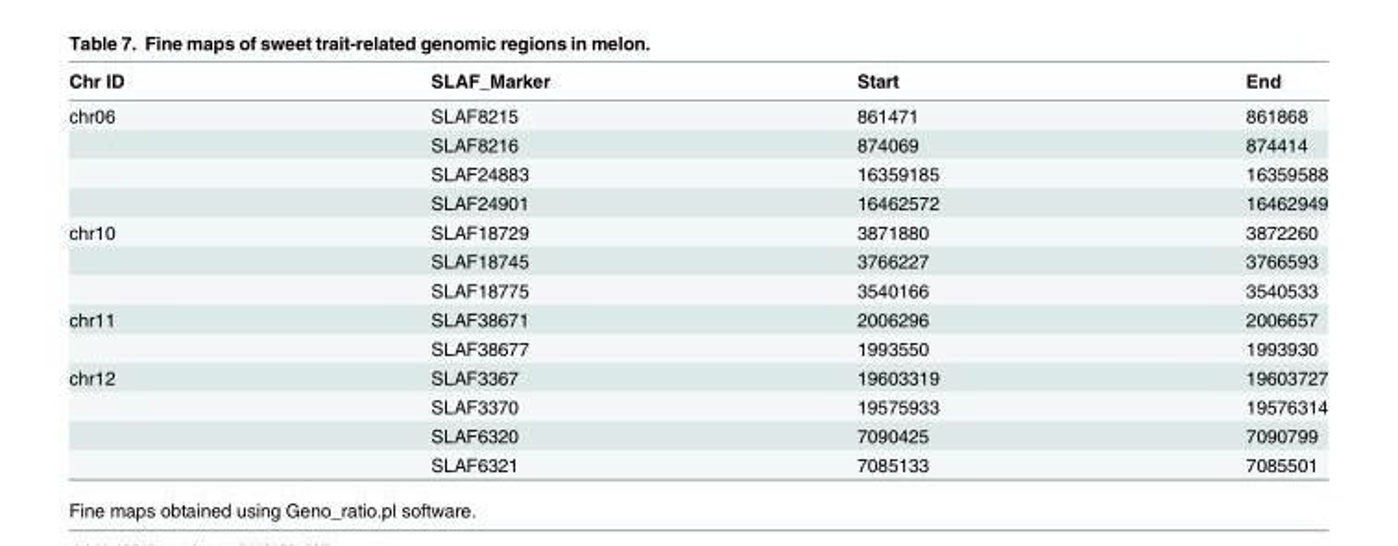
<table><thead><tr><td>Chr ID</td><td>SLAF_Marker</td><td>Start</td><td>End</td></tr></thead><tbody><tr><td rowspan="4">chr06</td><td>SLAF8215</td><td>861471</td><td>861868</td></tr><tr><td>SLAF8216</td><td>874069</td><td>874414</td></tr><tr><td>SLAF24883</td><td>16359185</td><td>16359588</td></tr><tr><td>SLAF24901</td><td>16462572</td><td>16462949</td></tr><tr><td rowspan="3">chr10</td><td>SLAF18729</td><td>3871880</td><td>3872260</td></tr><tr><td>SLAF18745</td><td>3766227</td><td>3766593</td></tr><tr><td>SLAF18775</td><td>3540166</td><td>3540533</td></tr><tr><td rowspan="2">chr11</td><td>SLAF38671</td><td>2006296</td><td>2006657</td></tr><tr><td>SLAF38677</td><td>1993550</td><td>1993930</td></tr><tr><td rowspan="4">chr12</td><td>SLAF3367</td><td>19603319</td><td>19603727</td></tr><tr><td>SLAF3370</td><td>19575933</td><td>19576314</td></tr><tr><td>SLAF6320</td><td>7090425</td><td>7090799</td></tr><tr><td>SLAF6321</td><td>7085133</td><td>7085501</td></tr></tbody></table>